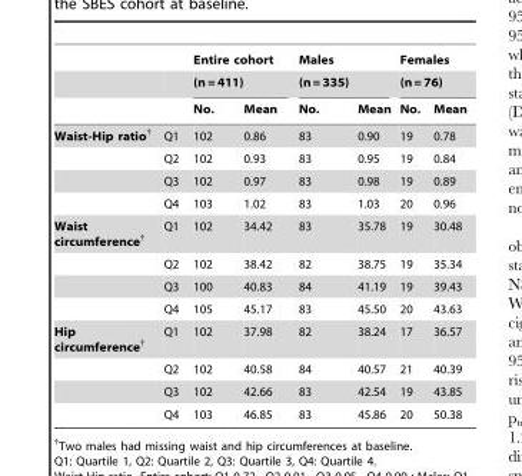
<table><thead><tr><td rowspan="3"></td><td rowspan="3"></td><td rowspan="2" colspan="2">Entire cohort (n = 411)</td><td rowspan="2" colspan="2">Males (n = 335)</td><td rowspan="2" colspan="2">Females (n = 76)</td></tr><tr></tr><tr><td>No.</td><td>Mean</td><td>No.</td><td>Mean</td><td>No.</td><td>Mean</td></tr></thead><tbody><tr><td rowspan="4">Waist-Hip ratio†</td><td>Q1</td><td>102</td><td>0.86</td><td>83</td><td>0.90</td><td>19</td><td>0.78</td></tr><tr><td>Q2</td><td>102</td><td>0.93</td><td>83</td><td>0.95</td><td>19</td><td>0.84</td></tr><tr><td>Q3</td><td>102</td><td>0.97</td><td>83</td><td>0.98</td><td>19</td><td>0.89</td></tr><tr><td>Q4</td><td>103</td><td>1.02</td><td>83</td><td>1.03</td><td>20</td><td>0.96</td></tr><tr><td rowspan="4">Waist circumference†</td><td>Q1</td><td>102</td><td>34.42</td><td>83</td><td>35.78</td><td>19</td><td>30.48</td></tr><tr><td>Q2</td><td>102</td><td>38.42</td><td>82</td><td>38.75</td><td>19</td><td>35.34</td></tr><tr><td>Q3</td><td>100</td><td>40.83</td><td>84</td><td>41.19</td><td>19</td><td>39.43</td></tr><tr><td>Q4</td><td>105</td><td>45.17</td><td>83</td><td>45.50</td><td>20</td><td>43.63</td></tr><tr><td rowspan="4">Hip circumference†</td><td>Q1</td><td>102</td><td>37.98</td><td>82</td><td>38.24</td><td>17</td><td>36.57</td></tr><tr><td>Q2</td><td>102</td><td>40.58</td><td>84</td><td>40.57</td><td>21</td><td>40.39</td></tr><tr><td>Q3</td><td>102</td><td>42.66</td><td>83</td><td>42.54</td><td>19</td><td>43.85</td></tr><tr><td>Q4</td><td>103</td><td>46.85</td><td>83</td><td>45.86</td><td>20</td><td>50.38</td></tr></tbody></table>